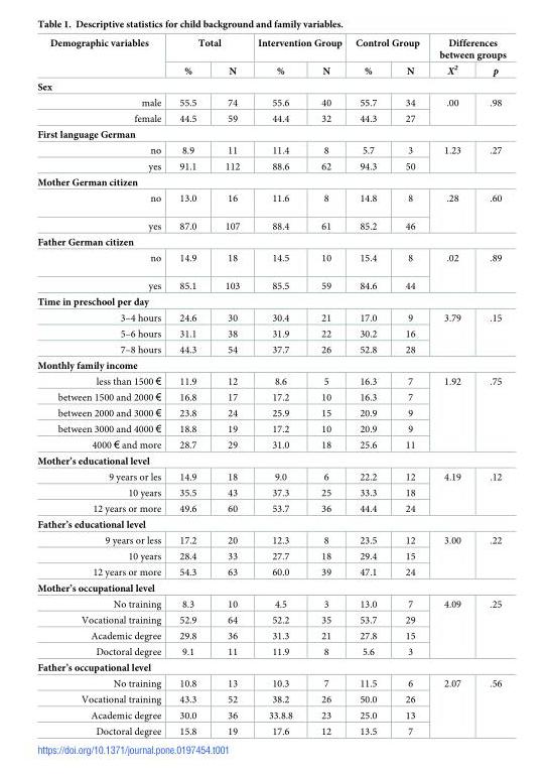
<table><thead><tr><td rowspan="2">Demographic variables</td><td colspan="2">Total</td><td colspan="2">Intervention Group</td><td colspan="2">Control Group</td><td colspan="2">Differences between groups</td></tr><tr><td>%</td><td>N</td><td>%</td><td>N</td><td>%</td><td>N</td><td>X<sup>2</sup></td><td>p</td></tr></thead><tbody><tr><td colspan="9">Sex</td></tr><tr><td>male</td><td>55.5</td><td>74</td><td>55.6</td><td>40</td><td>55.7</td><td>34</td><td rowspan="2">.00</td><td rowspan="2">.98</td></tr><tr><td>female</td><td>44.5</td><td>59</td><td>44.4</td><td>32</td><td>44.3</td><td>27</td></tr><tr><td colspan="9">First language German</td></tr><tr><td>no</td><td>8.9</td><td>11</td><td>11.4</td><td>8</td><td>5.7</td><td>3</td><td rowspan="2">1.23</td><td rowspan="2">.27</td></tr><tr><td>yes</td><td>91.1</td><td>112</td><td>88.6</td><td>62</td><td>94.3</td><td>50</td></tr><tr><td colspan="9">Mother German citizen</td></tr><tr><td>no</td><td>13.0</td><td>16</td><td>11.6</td><td>8</td><td>14.8</td><td>8</td><td rowspan="2">.28</td><td rowspan="2">.60</td></tr><tr><td>yes</td><td>87.0</td><td>107</td><td>88.4</td><td>61</td><td>85.2</td><td>46</td></tr><tr><td colspan="9">Father German citizen</td></tr><tr><td>no</td><td>14.9</td><td>18</td><td>14.5</td><td>10</td><td>15.4</td><td>8</td><td rowspan="2">.02</td><td rowspan="2">.89</td></tr><tr><td>yes</td><td>85.1</td><td>103</td><td>85.5</td><td>59</td><td>84.6</td><td>44</td></tr><tr><td colspan="9">Time in preschool per day</td></tr><tr><td>3–4 hours</td><td>24.6</td><td>30</td><td>30.4</td><td>21</td><td>17.0</td><td>9</td><td rowspan="3">3.79</td><td rowspan="3">.15</td></tr><tr><td>5–6 hours</td><td>31.1</td><td>38</td><td>31.9</td><td>22</td><td>30.2</td><td>16</td></tr><tr><td>7–8 hours</td><td>44.3</td><td>54</td><td>37.7</td><td>26</td><td>52.8</td><td>28</td></tr><tr><td colspan="9">Monthly family income</td></tr><tr><td>less than 1500 €</td><td>11.9</td><td>12</td><td>8.6</td><td>5</td><td>16.3</td><td>7</td><td rowspan="5">1.92</td><td rowspan="5">.75</td></tr><tr><td>between 1500 and 2000 €</td><td>16.8</td><td>17</td><td>17.2</td><td>10</td><td>16.3</td><td>7</td></tr><tr><td>between 2000 and 3000 €</td><td>23.8</td><td>24</td><td>25.9</td><td>15</td><td>20.9</td><td>9</td></tr><tr><td>between 3000 and 4000 €</td><td>18.8</td><td>19</td><td>17.2</td><td>10</td><td>20.9</td><td>9</td></tr><tr><td>4000 € and more</td><td>28.7</td><td>29</td><td>31.0</td><td>18</td><td>25.6</td><td>11</td></tr><tr><td colspan="9">Mother’s educational level</td></tr><tr><td>9 years or les</td><td>14.9</td><td>18</td><td>9.0</td><td>6</td><td>22.2</td><td>12</td><td rowspan="3">4.19</td><td rowspan="3">.12</td></tr><tr><td>10 years</td><td>35.5</td><td>43</td><td>37.3</td><td>25</td><td>33.3</td><td>18</td></tr><tr><td>12 years or more</td><td>49.6</td><td>60</td><td>53.7</td><td>36</td><td>44.4</td><td>24</td></tr><tr><td colspan="9">Father’s educational level</td></tr><tr><td>9 years or less</td><td>17.2</td><td>20</td><td>12.3</td><td>8</td><td>23.5</td><td>12</td><td rowspan="3">3.00</td><td rowspan="3">.22</td></tr><tr><td>10 years</td><td>28.4</td><td>33</td><td>27.7</td><td>18</td><td>29.4</td><td>15</td></tr><tr><td>12 years or more</td><td>54.3</td><td>63</td><td>60.0</td><td>39</td><td>47.1</td><td>24</td></tr><tr><td colspan="9">Mother’s occupational level</td></tr><tr><td>No training</td><td>8.3</td><td>10</td><td>4.5</td><td>3</td><td>13.0</td><td>7</td><td rowspan="4">4.09</td><td rowspan="4">.25</td></tr><tr><td>Vocational training</td><td>52.9</td><td>64</td><td>52.2</td><td>35</td><td>53.7</td><td>29</td></tr><tr><td>Academic degree</td><td>29.8</td><td>36</td><td>31.3</td><td>21</td><td>27.8</td><td>15</td></tr><tr><td>Doctoral degree</td><td>9.1</td><td>11</td><td>11.9</td><td>8</td><td>5.6</td><td>3</td></tr><tr><td colspan="9">Father’s occupational level</td></tr><tr><td>No training</td><td>10.8</td><td>13</td><td>10.3</td><td>7</td><td>11.5</td><td>6</td><td rowspan="4">2.07</td><td rowspan="4">.56</td></tr><tr><td>Vocational training</td><td>43.3</td><td>52</td><td>38.2</td><td>26</td><td>50.0</td><td>26</td></tr><tr><td>Academic degree</td><td>30.0</td><td>36</td><td>33.8.8</td><td>23</td><td>25.0</td><td>13</td></tr><tr><td>Doctoral degree</td><td>15.8</td><td>19</td><td>17.6</td><td>12</td><td>13.5</td><td>7</td></tr></tbody></table>